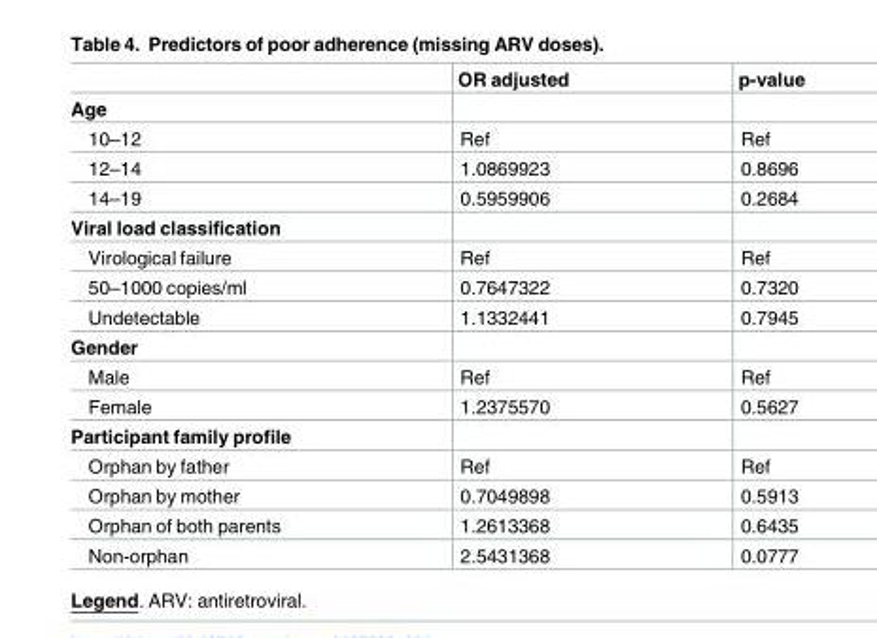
<table><thead><tr><td></td><td>OR adjusted</td><td>p-value</td></tr></thead><tbody><tr><td colspan="3">Age</td></tr><tr><td>10–12</td><td>Ref</td><td>Ref</td></tr><tr><td>12–14</td><td>1.0869923</td><td>0.8696</td></tr><tr><td>14–19</td><td>0.5959906</td><td>0.2684</td></tr><tr><td colspan="3">Viral load classification</td></tr><tr><td>Virological failure</td><td>Ref</td><td>Ref</td></tr><tr><td>50–1000 copies/ml</td><td>0.7647322</td><td>0.7320</td></tr><tr><td>Undetectable</td><td>1.1332441</td><td>0.7945</td></tr><tr><td colspan="3">Gender</td></tr><tr><td>Male</td><td>Ref</td><td>Ref</td></tr><tr><td>Female</td><td>1.2375570</td><td>0.5627</td></tr><tr><td colspan="3">Participant family profile</td></tr><tr><td>Orphan by father</td><td>Ref</td><td>Ref</td></tr><tr><td>Orphan by mother</td><td>0.7049898</td><td>0.5913</td></tr><tr><td>Orphan of both parents</td><td>1.2613368</td><td>0.6435</td></tr><tr><td>Non-orphan</td><td>2.5431368</td><td>0.0777</td></tr></tbody></table>